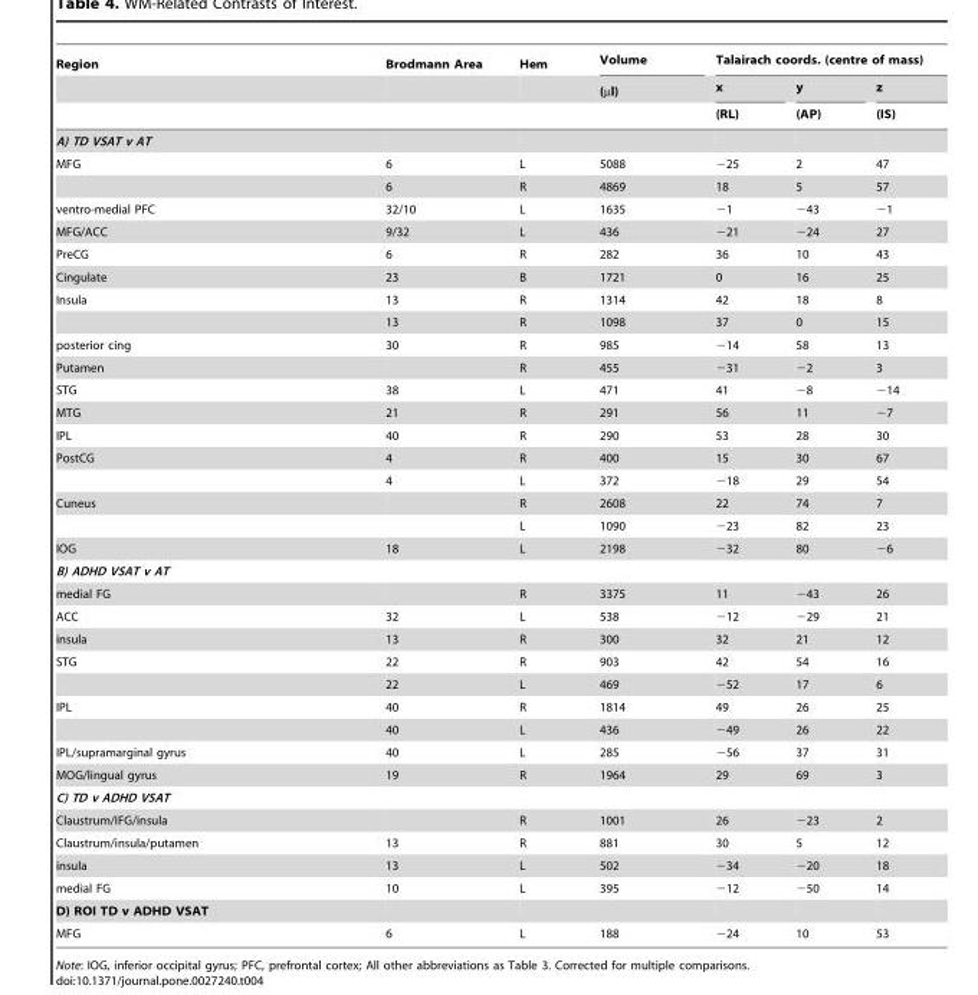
<table><thead><tr><td rowspan="3">Region</td><td rowspan="3">Brodmann Area</td><td rowspan="3">Hem</td><td rowspan="3">Volume (µl)</td><td colspan="3">Talairach coords. (centre of mass)</td></tr><tr><td rowspan="2">x (RL)</td><td rowspan="2">y (AP)</td><td rowspan="2">z (IS)</td></tr><tr></tr></thead><tbody><tr><td colspan="7">A) TD VSAT v AT</td></tr><tr><td rowspan="2">MFG</td><td>6</td><td>L</td><td>5088</td><td>−25</td><td>2</td><td>47</td></tr><tr><td>6</td><td>R</td><td>4869</td><td>18</td><td>5</td><td>57</td></tr><tr><td>ventro-medial PFC</td><td>32/10</td><td>L</td><td>1635</td><td>−1</td><td>−43</td><td>−1</td></tr><tr><td>MFG/ACC</td><td>9/32</td><td>L</td><td>436</td><td>−21</td><td>−24</td><td>27</td></tr><tr><td>PreCG</td><td>6</td><td>R</td><td>282</td><td>36</td><td>10</td><td>43</td></tr><tr><td>Cingulate</td><td>23</td><td>B</td><td>1721</td><td>0</td><td>16</td><td>25</td></tr><tr><td rowspan="2">Insula</td><td>13</td><td>R</td><td>1314</td><td>42</td><td>18</td><td>8</td></tr><tr><td>13</td><td>R</td><td>1098</td><td>37</td><td>0</td><td>15</td></tr><tr><td>posterior cing</td><td>30</td><td>R</td><td>985</td><td>−14</td><td>58</td><td>13</td></tr><tr><td>Putamen</td><td></td><td>R</td><td>455</td><td>−31</td><td>−2</td><td>3</td></tr><tr><td>STG</td><td>38</td><td>L</td><td>471</td><td>41</td><td>−8</td><td>−14</td></tr><tr><td>MTG</td><td>21</td><td>R</td><td>291</td><td>56</td><td>11</td><td>−7</td></tr><tr><td>IPL</td><td>40</td><td>R</td><td>290</td><td>53</td><td>28</td><td>30</td></tr><tr><td rowspan="2">PostCG</td><td>4</td><td>R</td><td>400</td><td>15</td><td>30</td><td>67</td></tr><tr><td>4</td><td>L</td><td>372</td><td>−18</td><td>29</td><td>54</td></tr><tr><td rowspan="2">Cuneus</td><td></td><td>R</td><td>2608</td><td>22</td><td>74</td><td>7</td></tr><tr><td></td><td>L</td><td>1090</td><td>−23</td><td>82</td><td>23</td></tr><tr><td>IOG</td><td>18</td><td>L</td><td>2198</td><td>−32</td><td>80</td><td>−6</td></tr><tr><td colspan="7">B) ADHD VSAT v AT</td></tr><tr><td>medial FG</td><td></td><td>R</td><td>3375</td><td>11</td><td>−43</td><td>26</td></tr><tr><td>ACC</td><td>32</td><td>L</td><td>538</td><td>−12</td><td>−29</td><td>21</td></tr><tr><td>insula</td><td>13</td><td>R</td><td>300</td><td>32</td><td>21</td><td>12</td></tr><tr><td rowspan="2">STG</td><td>22</td><td>R</td><td>903</td><td>42</td><td>54</td><td>16</td></tr><tr><td>22</td><td>L</td><td>469</td><td>−52</td><td>17</td><td>6</td></tr><tr><td rowspan="2">IPL</td><td>40</td><td>R</td><td>1814</td><td>49</td><td>26</td><td>25</td></tr><tr><td>40</td><td>L</td><td>436</td><td>−49</td><td>26</td><td>22</td></tr><tr><td>IPL/supramarginal gyrus</td><td>40</td><td>L</td><td>285</td><td>−56</td><td>37</td><td>31</td></tr><tr><td>MOG/lingual gyrus</td><td>19</td><td>R</td><td>1964</td><td>29</td><td>69</td><td>3</td></tr><tr><td colspan="7">C) TD v ADHD VSAT</td></tr><tr><td>Claustrum/IFG/insula</td><td></td><td>R</td><td>1001</td><td>26</td><td>−23</td><td>2</td></tr><tr><td>Claustrum/insula/putamen</td><td>13</td><td>R</td><td>881</td><td>30</td><td>5</td><td>12</td></tr><tr><td>insula</td><td>13</td><td>L</td><td>502</td><td>−34</td><td>−20</td><td>18</td></tr><tr><td>medial FG</td><td>10</td><td>L</td><td>395</td><td>−12</td><td>−50</td><td>14</td></tr><tr><td colspan="7">D) ROI TD v ADHD VSAT</td></tr><tr><td>MFG</td><td>6</td><td>L</td><td>188</td><td>−24</td><td>10</td><td>53</td></tr></tbody></table>